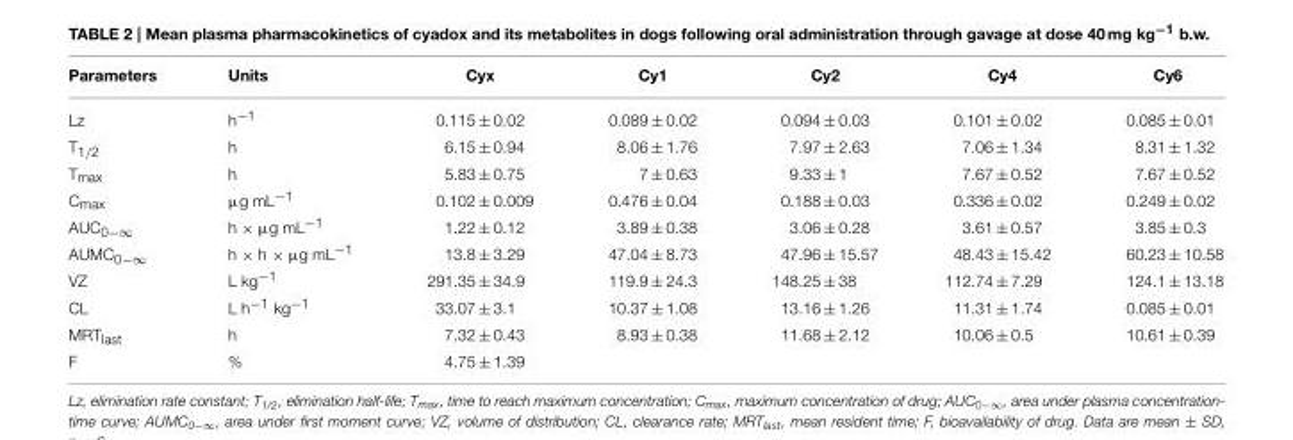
<table><thead><tr><td>Parameters</td><td>Units</td><td>Cyx</td><td>Cy1</td><td>Cy2</td><td>Cy4</td><td>Cy6</td></tr></thead><tbody><tr><td>Lz</td><td>h<sup>−1</sup></td><td>0.115 ± 0.02</td><td>0.089 ± 0.02</td><td>0.094 ± 0.03</td><td>0.101 ± 0.02</td><td>0.085 ± 0.01</td></tr><tr><td>T<sub>1/2</sub></td><td>h</td><td>6.15 ± 0.94</td><td>8.06 ± 1.76</td><td>7.97 ± 2.63</td><td>7.06 ± 1.34</td><td>8.31 ± 1.32</td></tr><tr><td>T<sub>max</sub></td><td>h</td><td>5.83 ± 0.75</td><td>7 ± 0.63</td><td>9.33 ± 1</td><td>7.67 ± 0.52</td><td>7.67 ± 0.52</td></tr><tr><td>C<sub>max</sub></td><td>µg mL<sup>−1</sup></td><td>0.102 ± 0.009</td><td>0.476 ± 0.04</td><td>0.188 ± 0.03</td><td>0.336 ± 0.02</td><td>0.249 ± 0.02</td></tr><tr><td>AUC<sub>0−∞</sub></td><td>h × µg mL<sup>−1</sup></td><td>1.22 ± 0.12</td><td>3.89 ± 0.38</td><td>3.06 ± 0.28</td><td>3.61 ± 0.57</td><td>3.85 ± 0.3</td></tr><tr><td>AUMC<sub>0−∞</sub></td><td>h × h × µg mL<sup>−1</sup></td><td>13.8 ± 3.29</td><td>47.04 ± 8.73</td><td>47.96 ± 15.57</td><td>48.43 ± 15.42</td><td>60.23 ± 10.58</td></tr><tr><td>VZ</td><td>L kg<sup>−1</sup></td><td>291.35 ± 34.9</td><td>119.9 ± 24.3</td><td>148.25 ± 38</td><td>112.74 ± 7.29</td><td>124.1 ± 13.18</td></tr><tr><td>CL</td><td>L h<sup>−1</sup> kg<sup>−1</sup></td><td>33.07 ± 3.1</td><td>10.37 ± 1.08</td><td>13.16 ± 1.26</td><td>11.31 ± 1.74</td><td>0.085 ± 0.01</td></tr><tr><td>MRT<sub>last</sub></td><td>h</td><td>7.32 ± 0.43</td><td>8.93 ± 0.38</td><td>11.68 ± 2.12</td><td>10.06 ± 0.5</td><td>10.61 ± 0.39</td></tr><tr><td>F</td><td>%</td><td>4.75 ± 1.39</td><td></td><td></td><td></td><td></td></tr></tbody></table>